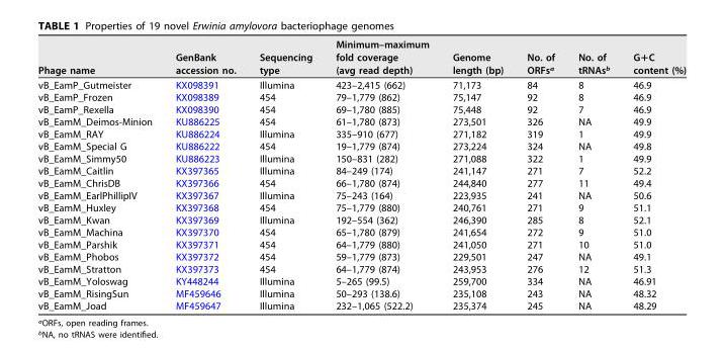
<table><thead><tr><td>Phage name</td><td>GenBank accession no.</td><td>Sequencing type</td><td>Minimum–maximum fold coverage (avg read depth)</td><td>Genome length (bp)</td><td>No. of ORFs<sup>a</sup></td><td>No. of tRNAs<sup>b</sup></td><td>G+C content (%)</td></tr></thead><tbody><tr><td>vB_EamP_Gutmeister</td><td>KX098391</td><td>Illumina</td><td>423–2,415 (662)</td><td>71,173</td><td>84</td><td>8</td><td>46.9</td></tr><tr><td>vB_EamP_Frozen</td><td>KX098389</td><td>454</td><td>79–1,779 (862)</td><td>75,147</td><td>92</td><td>8</td><td>46.9</td></tr><tr><td>vB_EamP_Rexella</td><td>KX098390</td><td>454</td><td>69–1,780 (885)</td><td>75,448</td><td>92</td><td>7</td><td>46.9</td></tr><tr><td>vB_EamM_Deimos-Minion</td><td>KU886225</td><td>454</td><td>61–1,780 (873)</td><td>273,501</td><td>326</td><td>NA</td><td>49.9</td></tr><tr><td>vB_EamM_RAY</td><td>KU886224</td><td>Illumina</td><td>335–910 (677)</td><td>271,182</td><td>319</td><td>1</td><td>49.9</td></tr><tr><td>vB_EamM_Special G</td><td>KU886222</td><td>454</td><td>19–1,779 (874)</td><td>273,224</td><td>324</td><td>NA</td><td>49.8</td></tr><tr><td>vB_EamM_Simmy50</td><td>KU886223</td><td>Illumina</td><td>150–831 (282)</td><td>271,088</td><td>322</td><td>1</td><td>49.9</td></tr><tr><td>vB_EamM_Caitlin</td><td>KX397365</td><td>Illumina</td><td>84–249 (174)</td><td>241,147</td><td>271</td><td>7</td><td>52.2</td></tr><tr><td>vB_EamM_ChrisDB</td><td>KX397366</td><td>454</td><td>66–1,780 (874)</td><td>244,840</td><td>277</td><td>11</td><td>49.4</td></tr><tr><td>vB_EamM_EarlPhillipIV</td><td>KX397367</td><td>Illumina</td><td>75–243 (164)</td><td>223,935</td><td>241</td><td>NA</td><td>50.6</td></tr><tr><td>vB_EamM_Huxley</td><td>KX397368</td><td>454</td><td>75–1,779 (880)</td><td>240,761</td><td>271</td><td>9</td><td>51.1</td></tr><tr><td>vB_EamM_Kwan</td><td>KX397369</td><td>Illumina</td><td>192–554 (362)</td><td>246,390</td><td>285</td><td>8</td><td>52.1</td></tr><tr><td>vB_EamM_Machina</td><td>KX397370</td><td>454</td><td>65–1,780 (879)</td><td>241,654</td><td>272</td><td>9</td><td>51.0</td></tr><tr><td>vB_EamM_Parshik</td><td>KX397371</td><td>454</td><td>64–1,779 (880)</td><td>241,050</td><td>271</td><td>10</td><td>51.0</td></tr><tr><td>vB_EamM_Phobos</td><td>KX397372</td><td>454</td><td>59–1,779 (873)</td><td>229,501</td><td>247</td><td>NA</td><td>49.1</td></tr><tr><td>vB_EamM_Stratton</td><td>KX397373</td><td>454</td><td>64–1,779 (874)</td><td>243,953</td><td>276</td><td>12</td><td>51.3</td></tr><tr><td>vB_EamM_Yoloswag</td><td>KY448244</td><td>Illumina</td><td>5–265 (99.5)</td><td>259,700</td><td>334</td><td>NA</td><td>46.91</td></tr><tr><td>vB_EamM_RisingSun</td><td>MF459646</td><td>Illumina</td><td>50–293 (138.6)</td><td>235,108</td><td>243</td><td>NA</td><td>48.32</td></tr><tr><td>vB_EamM_Joad</td><td>MF459647</td><td>Illumina</td><td>232–1,065 (522.2)</td><td>235,374</td><td>245</td><td>NA</td><td>48.29</td></tr></tbody></table>